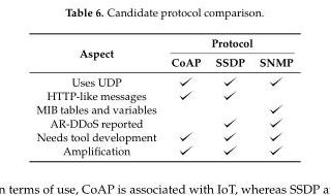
<table><thead><tr><td rowspan="2">Aspect</td><td colspan="3">Protocol</td></tr><tr><td>CoAP</td><td>SSDP</td><td>SNMP</td></tr></thead><tbody><tr><td colspan="4">Uses UDP</td></tr><tr><td colspan="4">HTTP-like messages</td></tr><tr><td colspan="4">MIB tables and variables</td></tr><tr><td colspan="4">AR-DDoS reported</td></tr><tr><td colspan="4">Needs tool development</td></tr><tr><td>Amplification</td><td></td><td></td><td></td></tr></tbody></table>